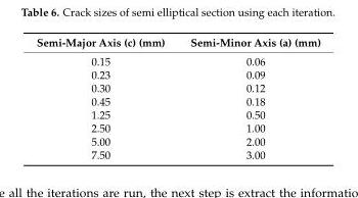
<table><thead><tr><td>Semi-Major Axis (c) (mm)</td><td>Semi-Minor Axis (a) (mm)</td></tr></thead><tbody><tr><td>0.15</td><td>0.06</td></tr><tr><td>0.23</td><td>0.09</td></tr><tr><td>0.30</td><td>0.12</td></tr><tr><td>0.45</td><td>0.18</td></tr><tr><td>1.25</td><td>0.50</td></tr><tr><td>2.50</td><td>1.00</td></tr><tr><td>5.00</td><td>2.00</td></tr><tr><td>7.50</td><td>3.00</td></tr></tbody></table>